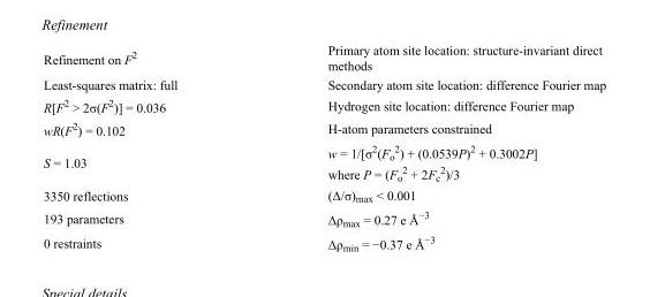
<table><tbody><tr><td>Refinement on F<sup>2</sup></td><td>Primary atom site location: structure-invariant direct methods</td></tr><tr><td>Least-squares matrix: full</td><td>Secondary atom site location: difference Fourier map</td></tr><tr><td>R[F<sup>2</sup> &gt; 2σ(F<sup>2</sup>)] = 0.036</td><td>Hydrogen site location: difference Fourier map</td></tr><tr><td>wR(F<sup>2</sup>) = 0.102</td><td>H-atom parameters constrained</td></tr><tr><td>S = 1.03</td><td>w = 1/[σ<sup>2</sup>(F<sub>o</sub> <sup>2</sup>) + (0.0539P)<sup>2</sup> + 0.3002P] where P = (F<sub>o</sub> <sup>2</sup> + 2F<sub>c</sub> <sup>2</sup>)/3</td></tr><tr><td>3350 reflections</td><td>(Δ/σ)<sub>max</sub> &lt; 0.001</td></tr><tr><td>193 parameters</td><td>Δρ<sub>max</sub> = 0.27 e Å<sup>−3</sup></td></tr><tr><td>0 restraints</td><td>Δρ<sub>min</sub> = −0.37 e Å<sup>−3</sup></td></tr></tbody></table>